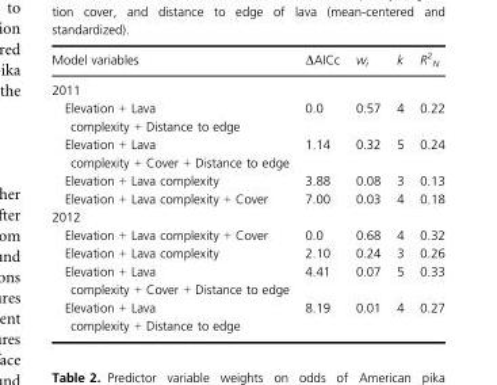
<table><thead><tr><td>Model variables</td><td>ΔAICc</td><td>w<sub>i</sub></td><td>k</td><td>R<sup>2</sup> <sub>N</sub></td></tr></thead><tbody><tr><td colspan="5">2011</td></tr><tr><td>Elevation + Lava complexity + Distance to edge</td><td>0.0</td><td>0.57</td><td>4</td><td>0.22</td></tr><tr><td>Elevation + Lava complexity + Cover + Distance to edge</td><td>1.14</td><td>0.32</td><td>5</td><td>0.24</td></tr><tr><td>Elevation + Lava complexity</td><td>3.88</td><td>0.08</td><td>3</td><td>0.13</td></tr><tr><td>Elevation + Lava complexity + Cover</td><td>7.00</td><td>0.03</td><td>4</td><td>0.18</td></tr><tr><td colspan="5">2012</td></tr><tr><td>Elevation + Lava complexity + Cover</td><td>0.0</td><td>0.68</td><td>4</td><td>0.32</td></tr><tr><td>Elevation + Lava complexity</td><td>2.10</td><td>0.24</td><td>3</td><td>0.26</td></tr><tr><td>Elevation + Lava complexity + Cover + Distance to edge</td><td>4.41</td><td>0.07</td><td>5</td><td>0.33</td></tr><tr><td>Elevation + Lava complexity + Distance to edge</td><td>8.19</td><td>0.01</td><td>4</td><td>0.27</td></tr></tbody></table>